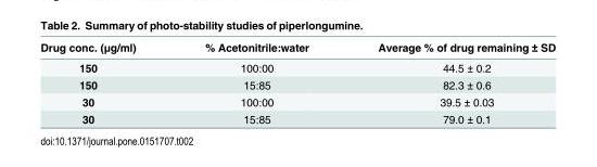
<table><thead><tr><td>Drug conc. (μg/ml)</td><td>% Acetonitrile:water</td><td>Average % of drug remaining ± SD</td></tr></thead><tbody><tr><td>150</td><td>100:00</td><td>44.5 ± 0.2</td></tr><tr><td>150</td><td>15:85</td><td>82.3 ± 0.6</td></tr><tr><td>30</td><td>100:00</td><td>39.5 ± 0.03</td></tr><tr><td>30</td><td>15:85</td><td>79.0 ± 0.1</td></tr></tbody></table>